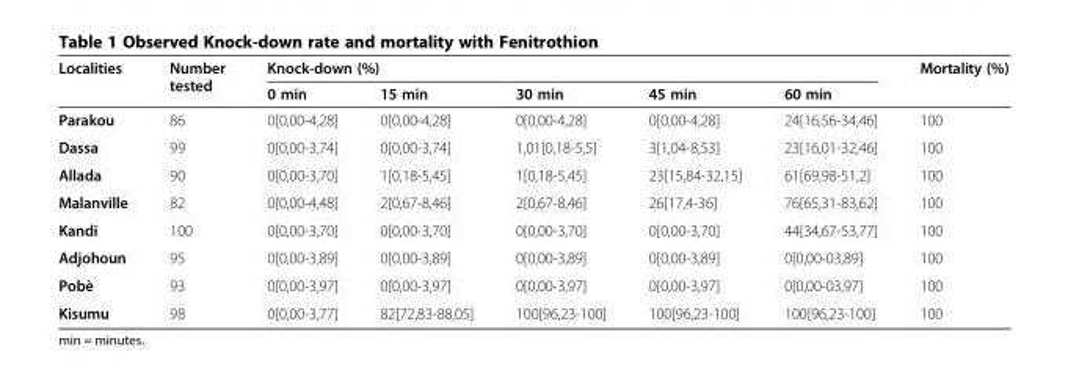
<table><thead><tr><td rowspan="2">Localities</td><td rowspan="2">Number tested</td><td colspan="5">Knock-down (%)</td><td rowspan="2">Mortality (%)</td></tr><tr><td>0 min</td><td>15 min</td><td>30 min</td><td>45 min</td><td>60 min</td></tr></thead><tbody><tr><td>Parakou</td><td>86</td><td>0[0,00-4,28]</td><td>0[0,00-4,28]</td><td>0[0,00-4,28]</td><td>0[0,00-4,28]</td><td>24[16,56-34,46]</td><td>100</td></tr><tr><td>Dassa</td><td>99</td><td>0[0,00-3,74]</td><td>0[0,00-3,74]</td><td>1,01[0,18-5,5]</td><td>3[1,04-8,53]</td><td>23[16,01-32,46]</td><td>100</td></tr><tr><td>Allada</td><td>90</td><td>0[0,00-3,70]</td><td>1[0,18-5,45]</td><td>1[0,18-5,45]</td><td>23[15,84-32,15]</td><td>61[69,98-51,2]</td><td>100</td></tr><tr><td>Malanville</td><td>82</td><td>0[0,00-4,48]</td><td>2[0,67-8,46]</td><td>2[0,67-8,46]</td><td>26[17,4-36]</td><td>76[65,31-83,62]</td><td>100</td></tr><tr><td>Kandi</td><td>100</td><td>0[0,00-3,70]</td><td>0[0,00-3,70]</td><td>0[0,00-3,70]</td><td>0[0,00-3,70]</td><td>44[34,67-53,77]</td><td>100</td></tr><tr><td>Adjohoun</td><td>95</td><td>0[0,00-3,89]</td><td>0[0,00-3,89]</td><td>0[0,00-3,89]</td><td>0[0,00-3,89]</td><td>0[0,00-03,89]</td><td>100</td></tr><tr><td>Pobè</td><td>93</td><td>0[0,00-3,97]</td><td>0[0,00-3,97]</td><td>0[0,00-3,97]</td><td>0[0,00-3,97]</td><td>0[0,00-03,97]</td><td>100</td></tr><tr><td>Kisumu</td><td>98</td><td>0[0,00-3,77]</td><td>82[72,83-88,05]</td><td>100[96,23-100]</td><td>100[96,23-100]</td><td>100[96,23-100]</td><td>100</td></tr></tbody></table>